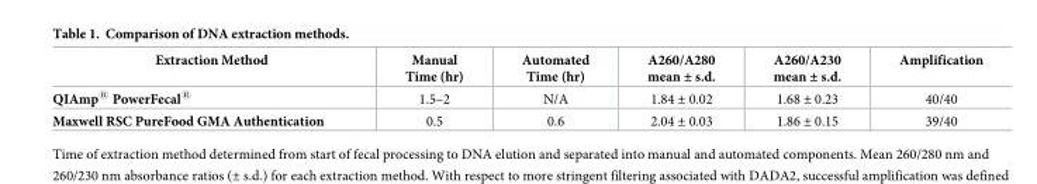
<table><thead><tr><td>Extraction Method</td><td>Manual Time (hr)</td><td>Automated Time (hr)</td><td>A260/A280 mean ± s.d.</td><td>A260/A230 mean ± s.d.</td><td>Amplification</td></tr></thead><tbody><tr><td>QIAmp<sup>®</sup> PowerFecal<sup>®</sup></td><td>1.5–2</td><td>N/A</td><td>1.84 ± 0.02</td><td>1.68 ± 0.23</td><td>40/40</td></tr><tr><td>Maxwell RSC PureFood GMA Authentication</td><td>0.5</td><td>0.6</td><td>2.04 ± 0.03</td><td>1.86 ± 0.15</td><td>39/40</td></tr></tbody></table>